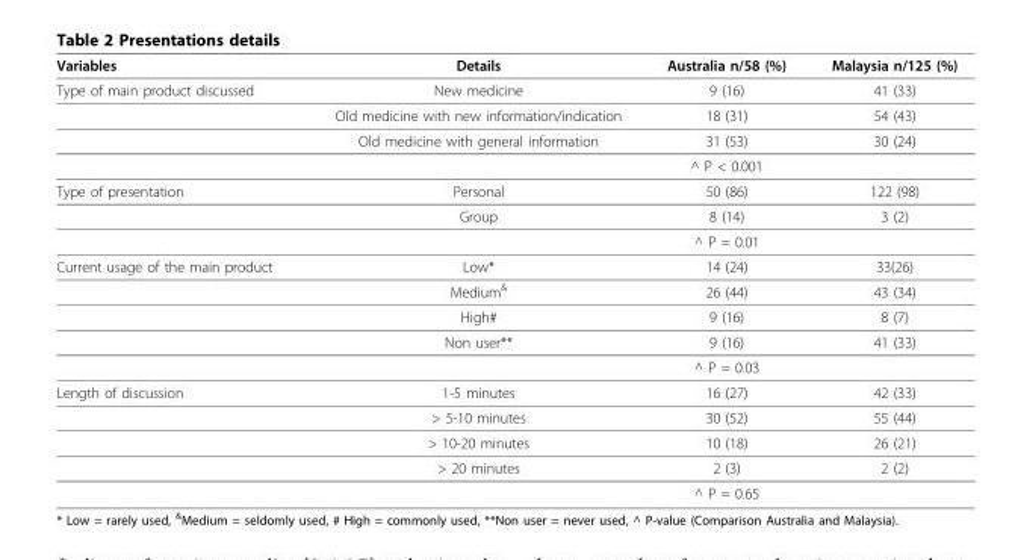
<table><thead><tr><td>Variables</td><td>Details</td><td>Australia n/58 (%)</td><td>Malaysia n/125 (%)</td></tr></thead><tbody><tr><td rowspan="4">Type of main product discussed</td><td>New medicine</td><td>9 (16)</td><td>41 (33)</td></tr><tr><td>Old medicine with new information/indication</td><td>18 (31)</td><td>54 (43)</td></tr><tr><td>Old medicine with general information</td><td>31 (53)</td><td>30 (24)</td></tr><tr><td></td><td>^ P &lt; 0.001</td><td></td></tr><tr><td rowspan="3">Type of presentation</td><td>Personal</td><td>50 (86)</td><td>122 (98)</td></tr><tr><td>Group</td><td>8 (14)</td><td>3 (2)</td></tr><tr><td></td><td>^ P = 0.01</td><td></td></tr><tr><td rowspan="5">Current usage of the main product</td><td>Low*</td><td>14 (24)</td><td>33(26)</td></tr><tr><td>Medium<sup>&amp;</sup></td><td>26 (44)</td><td>43 (34)</td></tr><tr><td>High#</td><td>9 (16)</td><td>8 (7)</td></tr><tr><td>Non user**</td><td>9 (16)</td><td>41 (33)</td></tr><tr><td></td><td>^ P = 0.03</td><td></td></tr><tr><td rowspan="5">Length of discussion</td><td>1-5 minutes</td><td>16 (27)</td><td>42 (33)</td></tr><tr><td>&gt; 5-10 minutes</td><td>30 (52)</td><td>55 (44)</td></tr><tr><td>&gt; 10-20 minutes</td><td>10 (18)</td><td>26 (21)</td></tr><tr><td>&gt; 20 minutes</td><td>2 (3)</td><td>2 (2)</td></tr><tr><td></td><td>^ P = 0.65</td><td></td></tr></tbody></table>